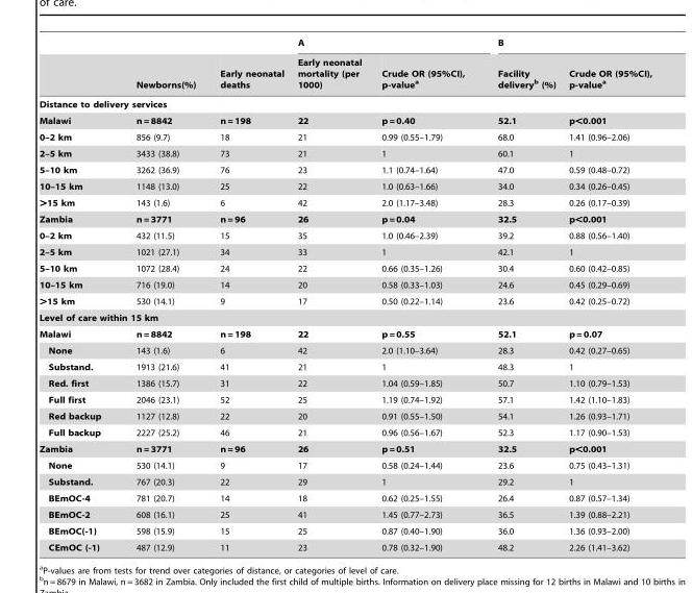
<table><thead><tr><td rowspan="2"></td><td rowspan="2">Newborns(%)</td><td rowspan="2">Early neonatal deaths</td><td colspan="2">A</td><td colspan="2">B</td></tr><tr><td>Early neonatal mortality (per 1000)</td><td>Crude OR (95%CI), p-value<sup>a</sup></td><td>Facility delivery<sup>b</sup> (%)</td><td>Crude OR (95%CI), p-value<sup>a</sup></td></tr></thead><tbody><tr><td colspan="7">Distance to delivery services</td></tr><tr><td>Malawi</td><td>n = 8842</td><td>n = 198</td><td>22</td><td>p = 0.40</td><td>52.1</td><td>p&lt;0.001</td></tr><tr><td>0–2 km</td><td>856 (9.7)</td><td>18</td><td>21</td><td>0.99 (0.55–1.79)</td><td>68.0</td><td>1.41 (0.96–2.06)</td></tr><tr><td>2–5 km</td><td>3433 (38.8)</td><td>73</td><td>21</td><td>1</td><td>60.1</td><td>1</td></tr><tr><td>5–10 km</td><td>3262 (36.9)</td><td>76</td><td>23</td><td>1.1 (0.74–1.64)</td><td>47.0</td><td>0.59 (0.48–0.72)</td></tr><tr><td>10–15 km</td><td>1148 (13.0)</td><td>25</td><td>22</td><td>1.0 (0.63–1.66)</td><td>34.0</td><td>0.34 (0.26–0.45)</td></tr><tr><td>&gt;15 km</td><td>143 (1.6)</td><td>6</td><td>42</td><td>2.0 (1.17–3.48)</td><td>28.3</td><td>0.26 (0.17–0.39)</td></tr><tr><td>Zambia</td><td>n = 3771</td><td>n = 96</td><td>26</td><td>p = 0.04</td><td>32.5</td><td>p&lt;0.001</td></tr><tr><td>0–2 km</td><td>432 (11.5)</td><td>15</td><td>35</td><td>1.0 (0.46–2.39)</td><td>39.2</td><td>0.88 (0.56–1.40)</td></tr><tr><td>2–5 km</td><td>1021 (27.1)</td><td>34</td><td>33</td><td>1</td><td>42.1</td><td>1</td></tr><tr><td>5–10 km</td><td>1072 (28.4)</td><td>24</td><td>22</td><td>0.66 (0.35–1.26)</td><td>30.4</td><td>0.60 (0.42–0.85)</td></tr><tr><td>10–15 km</td><td>716 (19.0)</td><td>14</td><td>20</td><td>0.58 (0.33–1.03)</td><td>24.6</td><td>0.45 (0.29–0.69)</td></tr><tr><td>&gt;15 km</td><td>530 (14.1)</td><td>9</td><td>17</td><td>0.50 (0.22–1.14)</td><td>23.6</td><td>0.42 (0.25–0.72)</td></tr><tr><td colspan="7">Level of care within 15 km</td></tr><tr><td>Malawi</td><td>n = 8842</td><td>n = 198</td><td>22</td><td>p = 0.55</td><td>52.1</td><td>p = 0.07</td></tr><tr><td>None</td><td>143 (1.6)</td><td>6</td><td>42</td><td>2.0 (1.10–3.64)</td><td>28.3</td><td>0.42 (0.27–0.65)</td></tr><tr><td>Substand.</td><td>1913 (21.6)</td><td>41</td><td>21</td><td>1</td><td>48.3</td><td>1</td></tr><tr><td>Red. first</td><td>1386 (15.7)</td><td>31</td><td>22</td><td>1.04 (0.59–1.85)</td><td>50.7</td><td>1.10 (0.79–1.53)</td></tr><tr><td>Full first</td><td>2046 (23.1)</td><td>52</td><td>25</td><td>1.19 (0.74–1.92)</td><td>57.1</td><td>1.42 (1.10–1.83)</td></tr><tr><td>Red backup</td><td>1127 (12.8)</td><td>22</td><td>20</td><td>0.91 (0.55–1.50)</td><td>54.1</td><td>1.26 (0.93–1.71)</td></tr><tr><td>Full backup</td><td>2227 (25.2)</td><td>46</td><td>21</td><td>0.96 (0.56–1.67)</td><td>52.3</td><td>1.17 (0.90–1.53)</td></tr><tr><td>Zambia</td><td>n = 3771</td><td>n = 96</td><td>26</td><td>p = 0.51</td><td>32.5</td><td>p&lt;0.001</td></tr><tr><td>None</td><td>530 (14.1)</td><td>9</td><td>17</td><td>0.58 (0.24–1.44)</td><td>23.6</td><td>0.75 (0.43–1.31)</td></tr><tr><td>Substand.</td><td>767 (20.3)</td><td>22</td><td>29</td><td>1</td><td>29.2</td><td>1</td></tr><tr><td>BEmOC-4</td><td>781 (20.7)</td><td>14</td><td>18</td><td>0.62 (0.25–1.55)</td><td>26.4</td><td>0.87 (0.57–1.34)</td></tr><tr><td>BEmOC-2</td><td>608 (16.1)</td><td>25</td><td>41</td><td>1.45 (0.77–2.73)</td><td>36.5</td><td>1.39 (0.88–2.21)</td></tr><tr><td>BEmOC(-1)</td><td>598 (15.9)</td><td>15</td><td>25</td><td>0.87 (0.40–1.90)</td><td>36.0</td><td>1.36 (0.93–2.00)</td></tr><tr><td>CEmOC (-1)</td><td>487 (12.9)</td><td>11</td><td>23</td><td>0.78 (0.32–1.90)</td><td>48.2</td><td>2.26 (1.41–3.62)</td></tr></tbody></table>